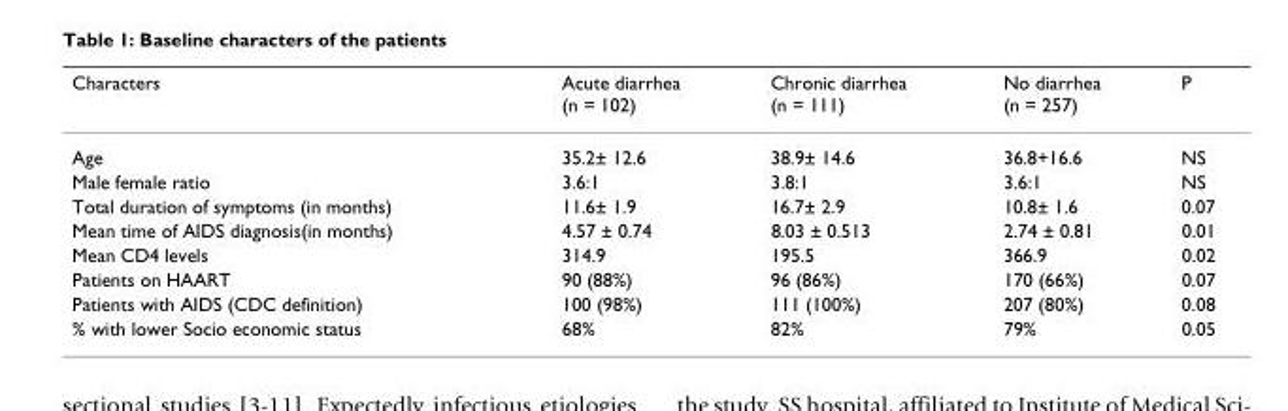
<table><thead><tr><td>Characters</td><td>Acute diarrhea (n = 102)</td><td>Chronic diarrhea (n = 111)</td><td>No diarrhea (n = 257)</td><td>P</td></tr></thead><tbody><tr><td>Age</td><td>35.2± 12.6</td><td>38.9± 14.6</td><td>36.8+16.6</td><td>NS</td></tr><tr><td>Male female ratio</td><td>3.6:1</td><td>3.8:1</td><td>3.6:1</td><td>NS</td></tr><tr><td>Total duration of symptoms (in months)</td><td>11.6± 1.9</td><td>16.7± 2.9</td><td>10.8± 1.6</td><td>0.07</td></tr><tr><td>Mean time of AIDS diagnosis(in months)</td><td>4.57 ± 0.74</td><td>8.03 ± 0.513</td><td>2.74 ± 0.81</td><td>0.01</td></tr><tr><td>Mean CD4 levels</td><td>314.9</td><td>195.5</td><td>366.9</td><td>0.02</td></tr><tr><td>Patients on HAART</td><td>90 (88%)</td><td>96 (86%)</td><td>170 (66%)</td><td>0.07</td></tr><tr><td>Patients with AIDS (CDC definition)</td><td>100 (98%)</td><td>111 (100%)</td><td>207 (80%)</td><td>0.08</td></tr><tr><td>% with lower Socio economic status</td><td>68%</td><td>82%</td><td>79%</td><td>0.05</td></tr></tbody></table>